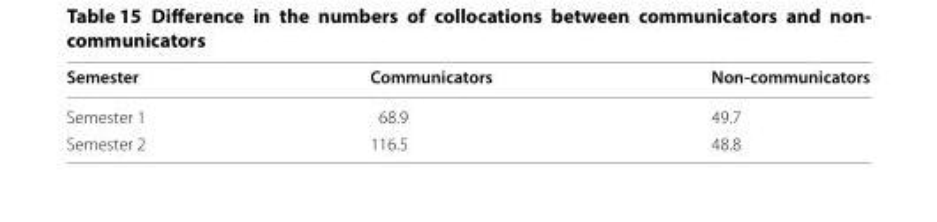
<table><thead><tr><td>Semester</td><td>Communicators</td><td>Non-communicators</td></tr></thead><tbody><tr><td>Semester 1</td><td>68.9</td><td>49.7</td></tr><tr><td>Semester 2</td><td>116.5</td><td>48.8</td></tr></tbody></table>